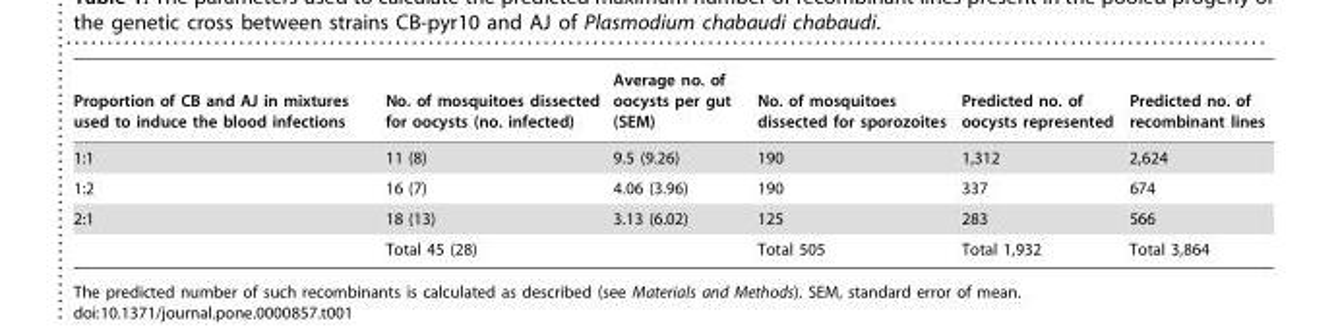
<table><thead><tr><td>Proportion of CB and AJ in mixtures used to induce the blood infections</td><td>No. of mosquitoes dissected for oocysts (no. infected)</td><td>Average no. of oocysts per gut (SEM)</td><td>No. of mosquitoes dissected for sporozoites</td><td>Predicted no. of oocysts represented</td><td>Predicted no. of recombinant lines</td></tr></thead><tbody><tr><td>1:1</td><td>11 (8)</td><td>9.5 (9.26)</td><td>190</td><td>1,312</td><td>2,624</td></tr><tr><td>1:2</td><td>16 (7)</td><td>4.06 (3.96)</td><td>190</td><td>337</td><td>674</td></tr><tr><td rowspan="2">2:1</td><td>18 (13)</td><td>3.13 (6.02)</td><td>125</td><td>283</td><td>566</td></tr><tr><td>Total 45 (28)</td><td></td><td>Total 505</td><td>Total 1,932</td><td>Total 3,864</td></tr></tbody></table>